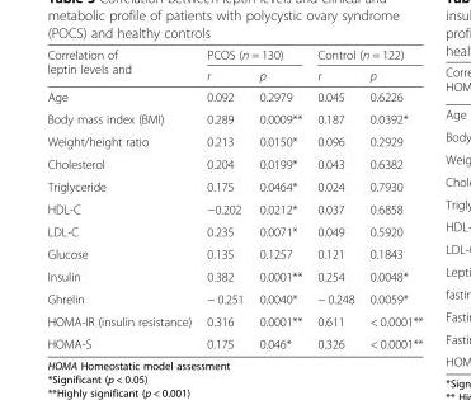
<table><thead><tr><td rowspan="2">Correlation of leptin levels and</td><td colspan="2">PCOS (n = 130)</td><td colspan="2">Control (n = 122)</td></tr><tr><td>r</td><td>p</td><td>r</td><td>p</td></tr></thead><tbody><tr><td>Age</td><td>0.092</td><td>0.2979</td><td>0.045</td><td>0.6226</td></tr><tr><td>Body mass index (BMI)</td><td>0.289</td><td>0.0009**</td><td>0.187</td><td>0.0392*</td></tr><tr><td>Weight/height ratio</td><td>0.213</td><td>0.0150*</td><td>0.096</td><td>0.2929</td></tr><tr><td>Cholesterol</td><td>0.204</td><td>0.0199*</td><td>0.043</td><td>0.6382</td></tr><tr><td>Triglyceride</td><td>0.175</td><td>0.0464*</td><td>0.024</td><td>0.7930</td></tr><tr><td>HDL-C</td><td>−0.202</td><td>0.0212*</td><td>0.037</td><td>0.6858</td></tr><tr><td>LDL-C</td><td>0.235</td><td>0.0071*</td><td>0.049</td><td>0.5920</td></tr><tr><td>Glucose</td><td>0.135</td><td>0.1257</td><td>0.121</td><td>0.1843</td></tr><tr><td>Insulin</td><td>0.382</td><td>0.0001**</td><td>0.254</td><td>0.0048*</td></tr><tr><td>Ghrelin</td><td>− 0.251</td><td>0.0040*</td><td>− 0.248</td><td>0.0059*</td></tr><tr><td>HOMA-IR (insulin resistance)</td><td>0.316</td><td>0.0001**</td><td>0.611</td><td>&lt; 0.0001**</td></tr><tr><td>HOMA-S</td><td>0.175</td><td>0.046*</td><td>0.326</td><td>&lt; 0.0001**</td></tr></tbody></table>